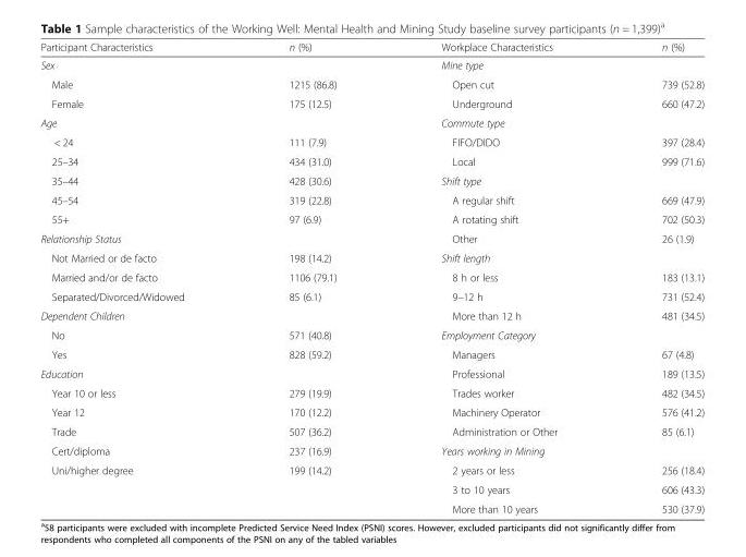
<table><thead><tr><td>Participant Characteristics</td><td>n (%)</td><td>Workplace Characteristics</td><td>n (%)</td></tr></thead><tbody><tr><td>Sex</td><td></td><td>Mine type</td><td></td></tr><tr><td>Male</td><td>1215 (86.8)</td><td>Open cut</td><td>739 (52.8)</td></tr><tr><td>Female</td><td>175 (12.5)</td><td>Underground</td><td>660 (47.2)</td></tr><tr><td>Age</td><td></td><td>Commute type</td><td></td></tr><tr><td>&lt; 24</td><td>111 (7.9)</td><td>FIFO/DIDO</td><td>397 (28.4)</td></tr><tr><td>25–34</td><td>434 (31.0)</td><td>Local</td><td>999 (71.6)</td></tr><tr><td>35–44</td><td>428 (30.6)</td><td>Shift type</td><td></td></tr><tr><td>45–54</td><td>319 (22.8)</td><td>A regular shift</td><td>669 (47.9)</td></tr><tr><td>55+</td><td>97 (6.9)</td><td>A rotating shift</td><td>702 (50.3)</td></tr><tr><td>Relationship Status</td><td></td><td>Other</td><td>26 (1.9)</td></tr><tr><td>Not Married or de facto</td><td>198 (14.2)</td><td>Shift length</td><td></td></tr><tr><td>Married and/or de facto</td><td>1106 (79.1)</td><td>8 h or less</td><td>183 (13.1)</td></tr><tr><td>Separated/Divorced/Widowed</td><td>85 (6.1)</td><td>9–12 h</td><td>731 (52.4)</td></tr><tr><td>Dependent Children</td><td></td><td>More than 12 h</td><td>481 (34.5)</td></tr><tr><td>No</td><td>571 (40.8)</td><td>Employment Category</td><td></td></tr><tr><td>Yes</td><td>828 (59.2)</td><td>Managers</td><td>67 (4.8)</td></tr><tr><td>Education</td><td></td><td>Professional</td><td>189 (13.5)</td></tr><tr><td>Year 10 or less</td><td>279 (19.9)</td><td>Trades worker</td><td>482 (34.5)</td></tr><tr><td>Year 12</td><td>170 (12.2)</td><td>Machinery Operator</td><td>576 (41.2)</td></tr><tr><td>Trade</td><td>507 (36.2)</td><td>Administration or Other</td><td>85 (6.1)</td></tr><tr><td>Cert/diploma</td><td>237 (16.9)</td><td>Years working in Mining</td><td></td></tr><tr><td rowspan="3">Uni/higher degree</td><td>199 (14.2)</td><td>2 years or less</td><td>256 (18.4)</td></tr><tr><td></td><td>3 to 10 years</td><td>606 (43.3)</td></tr><tr><td></td><td>More than 10 years</td><td>530 (37.9)</td></tr></tbody></table>